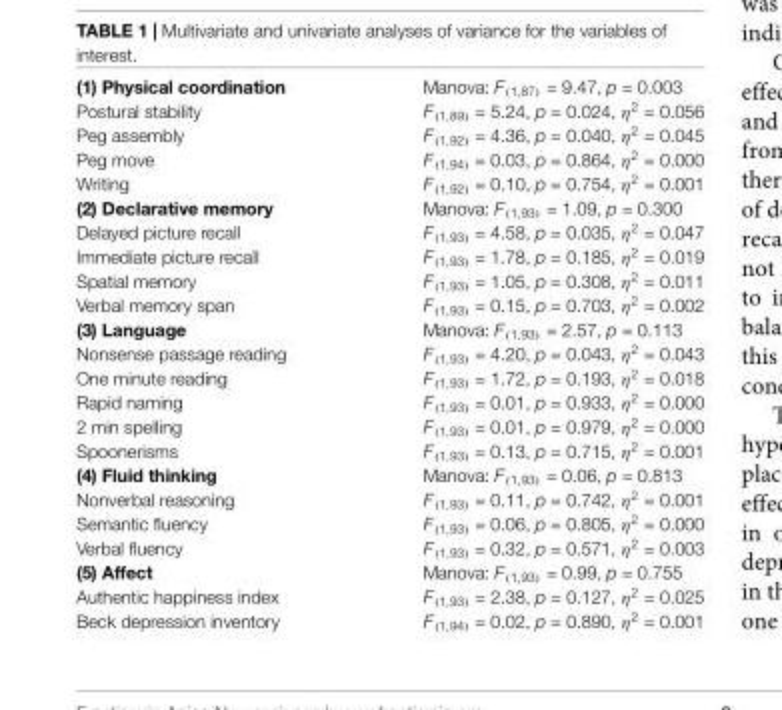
<table><tbody><tr><td>(1) Physical coordination</td><td>Manova: F<sub>(1,87)</sub> = 9.47, p = 0.003</td></tr><tr><td>Postural stability</td><td>F<sub>(1,89)</sub> = 5.24, p = 0.024, η<sup>2</sup> = 0.056</td></tr><tr><td>Peg assembly</td><td>F<sub>(1,92)</sub> = 4.36, p = 0.040, η<sup>2</sup> = 0.045</td></tr><tr><td>Peg move</td><td>F<sub>(1,94)</sub> = 0.03, p = 0.864, η<sup>2</sup> = 0.000</td></tr><tr><td>Writing</td><td>F<sub>(1,92)</sub> = 0.10, p = 0.754, η<sup>2</sup> = 0.001</td></tr><tr><td>(2) Declarative memory</td><td>Manova: F<sub>(1,93)</sub> = 1.09, p = 0.300</td></tr><tr><td>Delayed picture recall</td><td>F<sub>(1,93)</sub> = 4.58, p = 0.035, η<sup>2</sup> = 0.047</td></tr><tr><td>Immediate picture recall</td><td>F<sub>(1,93)</sub> = 1.78, p = 0.185, η<sup>2</sup> = 0.019</td></tr><tr><td>Spatial memory</td><td>F<sub>(1,93)</sub> = 1.05, p = 0.308, η<sup>2</sup> = 0.011</td></tr><tr><td>Verbal memory span</td><td>F<sub>(1,93)</sub> = 0.15, p = 0.703, η<sup>2</sup> = 0.002</td></tr><tr><td>(3) Language</td><td>Manova: F<sub>(1,93)</sub> = 2.57, p = 0.113</td></tr><tr><td>Nonsense passage reading</td><td>F<sub>(1,93)</sub> = 4.20, p = 0.043, η<sup>2</sup> = 0.043</td></tr><tr><td>One minute reading</td><td>F<sub>(1,93)</sub> = 1.72, p = 0.193, η<sup>2</sup> = 0.018</td></tr><tr><td>Rapid naming</td><td>F<sub>(1,93)</sub> = 0.01, p = 0.933, η<sup>2</sup> = 0.000</td></tr><tr><td>2 min spelling</td><td>F<sub>(1,93)</sub> = 0.01, p = 0.979, η<sup>2</sup> = 0.000</td></tr><tr><td>Spoonerisms</td><td>F<sub>(1,93)</sub> = 0.13, p = 0.715, η<sup>2</sup> = 0.001</td></tr><tr><td>(4) Fluid thinking</td><td>Manova: F<sub>(1,93)</sub> = 0.06, p = 0.813</td></tr><tr><td>Nonverbal reasoning</td><td>F<sub>(1,93)</sub> = 0.11, p = 0.742, η<sup>2</sup> = 0.001</td></tr><tr><td>Semantic fluency</td><td>F<sub>(1,93)</sub> = 0.06, p = 0.805, η<sup>2</sup> = 0.000</td></tr><tr><td>Verbal fluency</td><td>F<sub>(1,93)</sub> = 0.32, p = 0.571, η<sup>2</sup> = 0.003</td></tr><tr><td>(5) Affect</td><td>Manova: F<sub>(1,93)</sub> = 0.99, p = 0.755</td></tr><tr><td>Authentic happiness index</td><td>F<sub>(1,93)</sub> = 2.38, p = 0.127, η<sup>2</sup> = 0.025</td></tr><tr><td>Beck depression inventory</td><td>F<sub>(1,94)</sub> = 0.02, p = 0.890, η<sup>2</sup> = 0.001</td></tr></tbody></table>